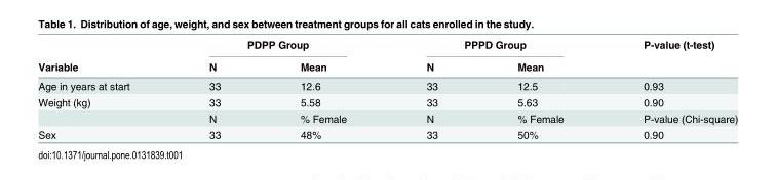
<table><thead><tr><td rowspan="2">Variable</td><td colspan="2">PDPP Group</td><td colspan="2">PPPD Group</td><td rowspan="2">P-value (t-test)</td></tr><tr><td>N</td><td>Mean</td><td>N</td><td>Mean</td></tr></thead><tbody><tr><td>Age in years at start</td><td>33</td><td>12.6</td><td>33</td><td>12.5</td><td>0.93</td></tr><tr><td rowspan="2">Weight (kg)</td><td>33</td><td>5.58</td><td>33</td><td>5.63</td><td>0.90</td></tr><tr><td>N</td><td>% Female</td><td>N</td><td>% Female</td><td>P-value (Chi-square)</td></tr><tr><td>Sex</td><td>33</td><td>48%</td><td>33</td><td>50%</td><td>0.90</td></tr></tbody></table>